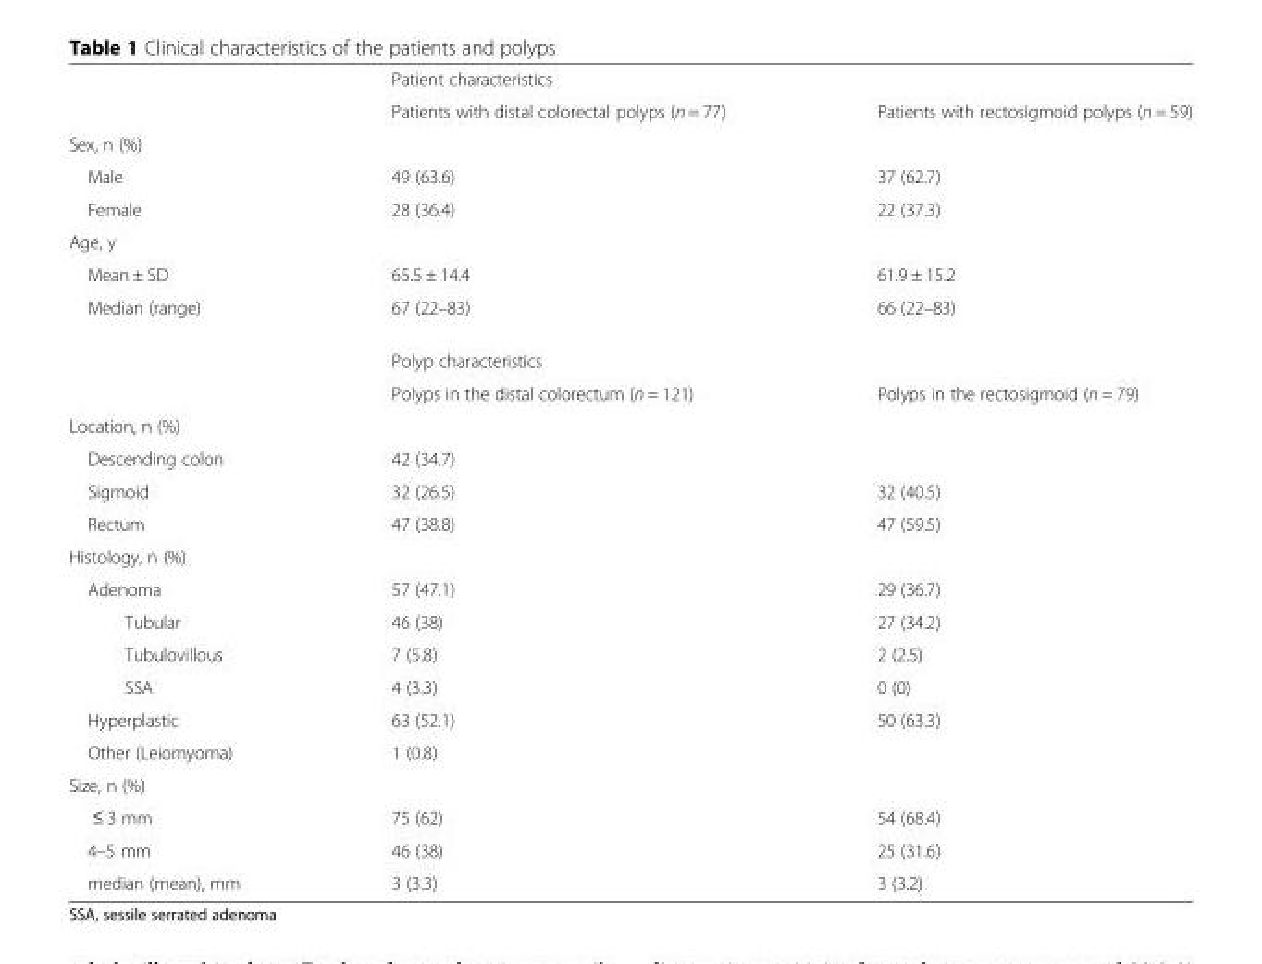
<table><thead><tr><td rowspan="2"></td><td colspan="2">Patient characteristics</td></tr><tr><td>Patients with distal colorectal polyps (n = 77)</td><td>Patients with rectosigmoid polyps (n = 59)</td></tr></thead><tbody><tr><td colspan="3">Sex, n (%)</td></tr><tr><td>Male</td><td>49 (63.6)</td><td>37 (62.7)</td></tr><tr><td>Female</td><td>28 (36.4)</td><td>22 (37.3)</td></tr><tr><td colspan="3">Age, y</td></tr><tr><td>Mean ± SD</td><td>65.5 ± 14.4</td><td>61.9 ± 15.2</td></tr><tr><td rowspan="3">Median (range)</td><td>67 (22–83)</td><td>66 (22–83)</td></tr><tr><td colspan="2">Polyp characteristics</td></tr><tr><td>Polyps in the distal colorectum (n = 121)</td><td>Polyps in the rectosigmoid (n = 79)</td></tr><tr><td colspan="3">Location, n (%)</td></tr><tr><td>Descending colon</td><td>42 (34.7)</td><td></td></tr><tr><td>Sigmoid</td><td>32 (26.5)</td><td>32 (40.5)</td></tr><tr><td>Rectum</td><td>47 (38.8)</td><td>47 (59.5)</td></tr><tr><td colspan="3">Histology, n (%)</td></tr><tr><td>Adenoma</td><td>57 (47.1)</td><td>29 (36.7)</td></tr><tr><td>Tubular</td><td>46 (38)</td><td>27 (34.2)</td></tr><tr><td>Tubulovillous</td><td>7 (5.8)</td><td>2 (2.5)</td></tr><tr><td>SSA</td><td>4 (3.3)</td><td>0 (0)</td></tr><tr><td>Hyperplastic</td><td>63 (52.1)</td><td>50 (63.3)</td></tr><tr><td>Other (Leiomyoma)</td><td>1 (0.8)</td><td></td></tr><tr><td colspan="3">Size, n (%)</td></tr><tr><td>≤ 3 mm</td><td>75 (62)</td><td>54 (68.4)</td></tr><tr><td>4–5 mm</td><td>46 (38)</td><td>25 (31.6)</td></tr><tr><td>median (mean), mm</td><td>3 (3.3)</td><td>3 (3.2)</td></tr></tbody></table>